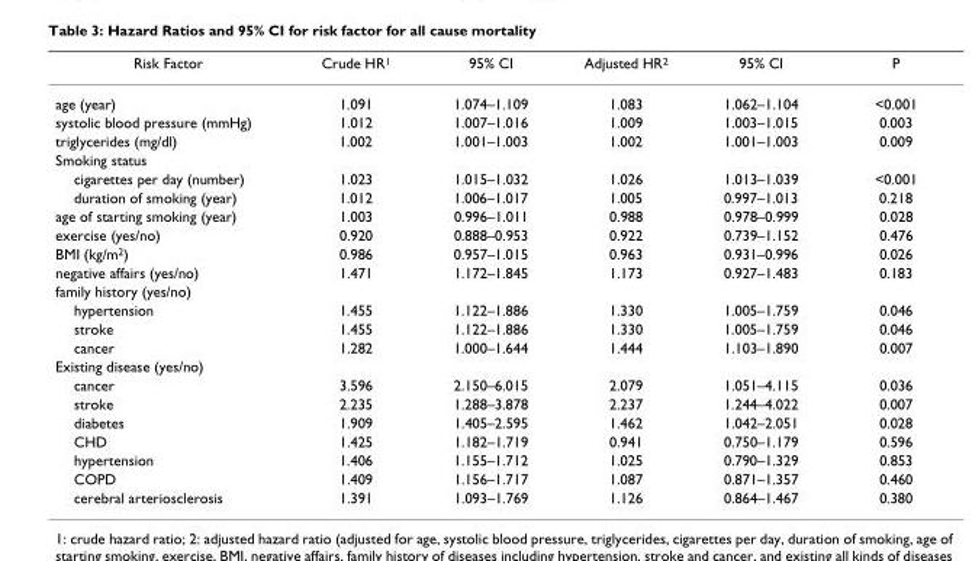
<table><thead><tr><td>Risk Factor</td><td>Crude HR<sup>1</sup></td><td>95% CI</td><td>Adjusted HR<sup>2</sup></td><td>95% CI</td><td>P</td></tr></thead><tbody><tr><td>age (year)</td><td>1.091</td><td>1.074–1.109</td><td>1.083</td><td>1.062–1.104</td><td>&lt;0.001</td></tr><tr><td>systolic blood pressure (mmHg)</td><td>1.012</td><td>1.007–1.016</td><td>1.009</td><td>1.003–1.015</td><td>0.003</td></tr><tr><td>triglycerides (mg/dl)</td><td>1.002</td><td>1.001–1.003</td><td>1.002</td><td>1.001–1.003</td><td>0.009</td></tr><tr><td colspan="6">Smoking status</td></tr><tr><td>cigarettes per day (number)</td><td>1.023</td><td>1.015–1.032</td><td>1.026</td><td>1.013–1.039</td><td>&lt;0.001</td></tr><tr><td>duration of smoking (year)</td><td>1.012</td><td>1.006–1.017</td><td>1.005</td><td>0.997–1.013</td><td>0.218</td></tr><tr><td>age of starting smoking (year)</td><td>1.003</td><td>0.996–1.011</td><td>0.988</td><td>0.978–0.999</td><td>0.028</td></tr><tr><td>exercise (yes/no)</td><td>0.920</td><td>0.888–0.953</td><td>0.922</td><td>0.739–1.152</td><td>0.476</td></tr><tr><td>BMI (kg/m<sup>2</sup>)</td><td>0.986</td><td>0.957–1.015</td><td>0.963</td><td>0.931–0.996</td><td>0.026</td></tr><tr><td>negative affairs (yes/no)</td><td>1.471</td><td>1.172–1.845</td><td>1.173</td><td>0.927–1.483</td><td>0.183</td></tr><tr><td colspan="6">family history (yes/no)</td></tr><tr><td>hypertension</td><td>1.455</td><td>1.122–1.886</td><td>1.330</td><td>1.005–1.759</td><td>0.046</td></tr><tr><td>stroke</td><td>1.455</td><td>1.122–1.886</td><td>1.330</td><td>1.005–1.759</td><td>0.046</td></tr><tr><td>cancer</td><td>1.282</td><td>1.000–1.644</td><td>1.444</td><td>1.103–1.890</td><td>0.007</td></tr><tr><td colspan="6">Existing disease (yes/no)</td></tr><tr><td>cancer</td><td>3.596</td><td>2.150–6.015</td><td>2.079</td><td>1.051–4.115</td><td>0.036</td></tr><tr><td>stroke</td><td>2.235</td><td>1.288–3.878</td><td>2.237</td><td>1.244–4.022</td><td>0.007</td></tr><tr><td>diabetes</td><td>1.909</td><td>1.405–2.595</td><td>1.462</td><td>1.042–2.051</td><td>0.028</td></tr><tr><td>CHD</td><td>1.425</td><td>1.182–1.719</td><td>0.941</td><td>0.750–1.179</td><td>0.596</td></tr><tr><td>hypertension</td><td>1.406</td><td>1.155–1.712</td><td>1.025</td><td>0.790–1.329</td><td>0.853</td></tr><tr><td>COPD</td><td>1.409</td><td>1.156–1.717</td><td>1.087</td><td>0.871–1.357</td><td>0.460</td></tr><tr><td>cerebral arteriosclerosis</td><td>1.391</td><td>1.093–1.769</td><td>1.126</td><td>0.864–1.467</td><td>0.380</td></tr></tbody></table>